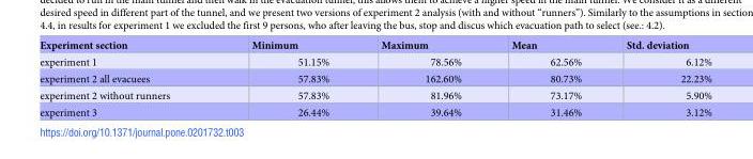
<table><thead><tr><td>Experiment section</td><td>Minimum</td><td>Maximum</td><td>Mean</td><td>Std. deviation</td></tr></thead><tbody><tr><td>experiment 1</td><td>51.15%</td><td>78.56%</td><td>62.56%</td><td>6.12%</td></tr><tr><td>experiment 2 all evacuees</td><td>57.83%</td><td>162.60%</td><td>80.73%</td><td>22.23%</td></tr><tr><td>experiment 2 without runners</td><td>57.83%</td><td>81.96%</td><td>73.17%</td><td>5.90%</td></tr><tr><td>experiment 3</td><td>26.44%</td><td>39.64%</td><td>31.46%</td><td>3.12%</td></tr></tbody></table>